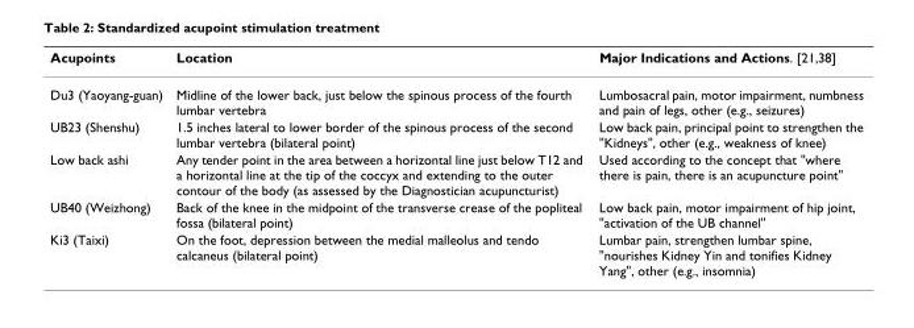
<table><thead><tr><td>Acupoints</td><td>Location</td><td>Major Indications and Actions. [21,38]</td></tr></thead><tbody><tr><td>Du3 (Yaoyang-guan)</td><td>Midline of the lower back, just below the spinous process of the fourth lumbar vertebra</td><td>Lumbosacral pain, motor impairment, numbness and pain of legs, other (e.g., seizures)</td></tr><tr><td>UB23 (Shenshu)</td><td>1.5 inches lateral to lower border of the spinous process of the second lumbar vertebra (bilateral point)</td><td>Low back pain, principal point to strengthen the &quot;Kidneys&quot;, other (e.g., weakness of knee)</td></tr><tr><td>Low back ashi</td><td>Any tender point in the area between a horizontal line just below T12 and a horizontal line at the tip of the coccyx and extending to the outer contour of the body (as assessed by the Diagnostician acupuncturist)</td><td>Used according to the concept that &quot;where there is pain, there is an acupuncture point&quot;</td></tr><tr><td>UB40 (Weizhong)</td><td>Back of the knee in the midpoint of the transverse crease of the popliteal fossa (bilateral point)</td><td>Low back pain, motor impairment of hip joint, &quot;activation of the UB channel&quot;</td></tr><tr><td>Ki3 (Taixi)</td><td>On the foot, depression between the medial malleolus and tendo calcaneus (bilateral point)</td><td>Lumbar pain, strengthen lumbar spine, &quot;nourishes Kidney Yin and tonifies Kidney Yang&quot;, other (e.g., insomnia)</td></tr></tbody></table>